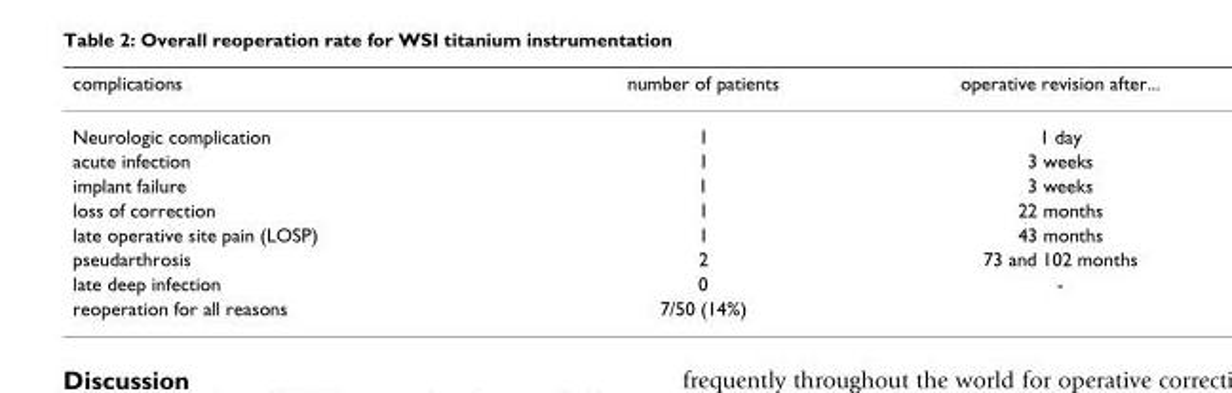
<table><thead><tr><td>complications</td><td>number of patients</td><td>operative revision after...</td></tr></thead><tbody><tr><td>Neurologic complication</td><td>1</td><td>1 day</td></tr><tr><td>acute infection</td><td>1</td><td>3 weeks</td></tr><tr><td>implant failure</td><td>1</td><td>3 weeks</td></tr><tr><td>loss of correction</td><td>1</td><td>22 months</td></tr><tr><td>late operative site pain (LOSP)</td><td>1</td><td>43 months</td></tr><tr><td>pseudarthrosis</td><td>2</td><td>73 and 102 months</td></tr><tr><td>late deep infection</td><td>0</td><td>-</td></tr><tr><td>reoperation for all reasons</td><td>7/50 (14%)</td><td></td></tr></tbody></table>